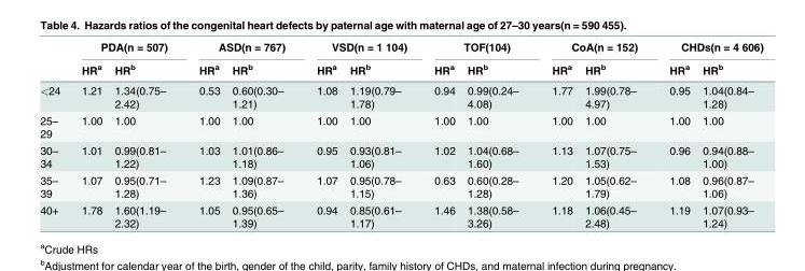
<table><thead><tr><td rowspan="2"></td><td colspan="2">PDA(n = 507)</td><td colspan="2">ASD(n = 767)</td><td colspan="2">VSD(n = 1 104)</td><td colspan="2">TOF(104)</td><td colspan="2">CoA(n = 152)</td><td colspan="2">CHDs(n = 4 606)</td></tr><tr><td>HR<sup>a</sup></td><td>HR<sup>b</sup></td><td>HR<sup>a</sup></td><td>HR<sup>b</sup></td><td>HR<sup>a</sup></td><td>HR<sup>b</sup></td><td>HR<sup>a</sup></td><td>HR<sup>b</sup></td><td>HR<sup>a</sup></td><td>HR<sup>b</sup></td><td>HR<sup>a</sup></td><td>HR<sup>b</sup></td></tr></thead><tbody><tr><td>&lt;24</td><td>1.21</td><td>1.34(0.75– 2.42)</td><td>0.53</td><td>0.60(0.30– 1.21)</td><td>1.08</td><td>1.19(0.79– 1.78)</td><td>0.94</td><td>0.99(0.24– 4.08)</td><td>1.77</td><td>1.99(0.78– 4.97)</td><td>0.95</td><td>1.04(0.84– 1.28)</td></tr><tr><td>25– 29</td><td>1.00</td><td>1.00</td><td>1.00</td><td>1.00</td><td>1.00</td><td>1.00</td><td>1.00</td><td>1.00</td><td>1.00</td><td>1.00</td><td>1.00</td><td>1.00</td></tr><tr><td>30– 34</td><td>1.01</td><td>0.99(0.81– 1.22)</td><td>1.03</td><td>1.01(0.86– 1.18)</td><td>0.95</td><td>0.93(0.81– 1.06)</td><td>1.02</td><td>1.04(0.68– 1.60)</td><td>1.13</td><td>1.07(0.75– 1.53)</td><td>0.96</td><td>0.94(0.88– 1.00)</td></tr><tr><td>35– 39</td><td>1.07</td><td>0.95(0.71– 1.28)</td><td>1.23</td><td>1.09(0.87– 1.36)</td><td>1.07</td><td>0.95(0.78– 1.15)</td><td>0.63</td><td>0.60(0.28– 1.28)</td><td>1.20</td><td>1.05(0.62– 1.79)</td><td>1.08</td><td>0.96(0.87– 1.06)</td></tr><tr><td>40+</td><td>1.78</td><td>1.60(1.19– 2.32)</td><td>1.05</td><td>0.95(0.65– 1.39)</td><td>0.94</td><td>0.85(0.61– 1.17)</td><td>1.46</td><td>1.38(0.58– 3.26)</td><td>1.18</td><td>1.06(0.45– 2.48)</td><td>1.19</td><td>1.07(0.93– 1.24)</td></tr></tbody></table>